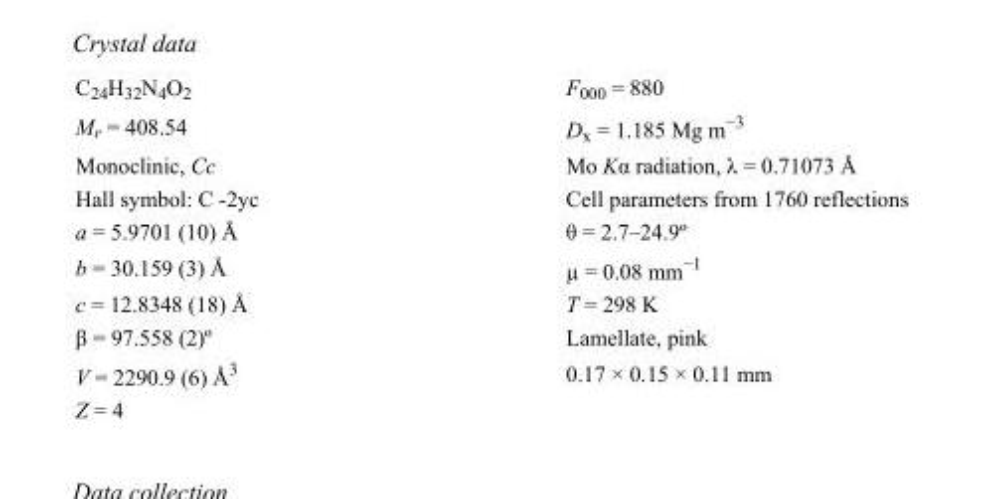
<table><tbody><tr><td>C<sub>24</sub>H<sub>32</sub>N<sub>4</sub>O<sub>2</sub></td><td>F000 = 880</td></tr><tr><td>M<sub>r</sub> = 408.54</td><td>D<sub>x</sub> = 1.185 Mg m<sup>−3</sup></td></tr><tr><td>Monoclinic, Cc</td><td>Mo Kα radiation, λ = 0.71073 Å</td></tr><tr><td>Hall symbol: C -2yc</td><td>Cell parameters from 1760 reflections</td></tr><tr><td>a = 5.9701 (10) Å</td><td>θ = 2.7–24.9º</td></tr><tr><td>b = 30.159 (3) Å</td><td>µ = 0.08 mm<sup>−1</sup></td></tr><tr><td>c = 12.8348 (18) Å</td><td>T = 298 K</td></tr><tr><td>β = 97.558 (2)º</td><td>Lamellate, pink</td></tr><tr><td>V = 2290.9 (6) Å<sup>3</sup></td><td>0.17 × 0.15 × 0.11 mm</td></tr><tr><td>Z = 4</td><td></td></tr></tbody></table>